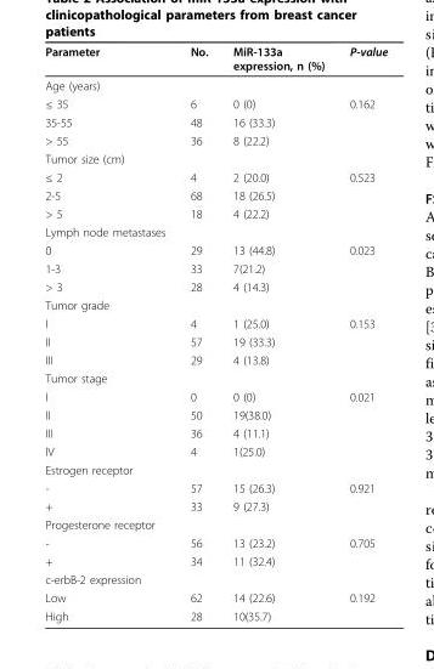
<table><thead><tr><td>Parameter</td><td>No.</td><td>MiR-133a expression, n (%)</td><td>P-value</td></tr></thead><tbody><tr><td colspan="4">Age (years)</td></tr><tr><td>≤ 35</td><td>6</td><td>0 (0)</td><td>0.162</td></tr><tr><td>35-55</td><td>48</td><td>16 (33.3)</td><td></td></tr><tr><td>&gt; 55</td><td>36</td><td>8 (22.2)</td><td></td></tr><tr><td colspan="4">Tumor size (cm)</td></tr><tr><td>≤ 2</td><td>4</td><td>2 (20.0)</td><td>0.523</td></tr><tr><td>2-5</td><td>68</td><td>18 (26.5)</td><td></td></tr><tr><td>&gt; 5</td><td>18</td><td>4 (22.2)</td><td></td></tr><tr><td colspan="4">Lymph node metastases</td></tr><tr><td>0</td><td>29</td><td>13 (44.8)</td><td>0.023</td></tr><tr><td>1-3</td><td>33</td><td>7(21.2)</td><td></td></tr><tr><td>&gt; 3</td><td>28</td><td>4 (14.3)</td><td></td></tr><tr><td colspan="4">Tumor grade</td></tr><tr><td>I</td><td>4</td><td>1 (25.0)</td><td>0.153</td></tr><tr><td>II</td><td>57</td><td>19 (33.3)</td><td></td></tr><tr><td>III</td><td>29</td><td>4 (13.8)</td><td></td></tr><tr><td colspan="4">Tumor stage</td></tr><tr><td>I</td><td>0</td><td>0 (0)</td><td>0.021</td></tr><tr><td>II</td><td>50</td><td>19(38.0)</td><td></td></tr><tr><td>III</td><td>36</td><td>4 (11.1)</td><td></td></tr><tr><td>IV</td><td>4</td><td>1(25.0)</td><td></td></tr><tr><td colspan="4">Estrogen receptor</td></tr><tr><td>-</td><td>57</td><td>15 (26.3)</td><td>0.921</td></tr><tr><td>+</td><td>33</td><td>9 (27.3)</td><td></td></tr><tr><td colspan="4">Progesterone receptor</td></tr><tr><td>-</td><td>56</td><td>13 (23.2)</td><td>0.705</td></tr><tr><td>+</td><td>34</td><td>11 (32.4)</td><td></td></tr><tr><td colspan="4">c-erbB-2 expression</td></tr><tr><td>Low</td><td>62</td><td>14 (22.6)</td><td>0.192</td></tr><tr><td>High</td><td>28</td><td>10(35.7)</td><td></td></tr></tbody></table>